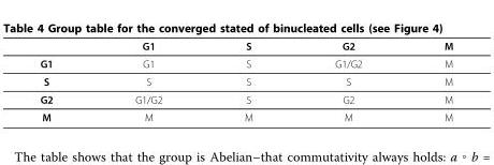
<table><thead><tr><td></td><td>G1</td><td>S</td><td>G2</td><td>M</td></tr></thead><tbody><tr><td>G1</td><td>G1</td><td>S</td><td>G1/G2</td><td>M</td></tr><tr><td>S</td><td>S</td><td>S</td><td>S</td><td>M</td></tr><tr><td>G2</td><td>G1/G2</td><td>S</td><td>G2</td><td>M</td></tr><tr><td>M</td><td>M</td><td>M</td><td>M</td><td>M</td></tr></tbody></table>